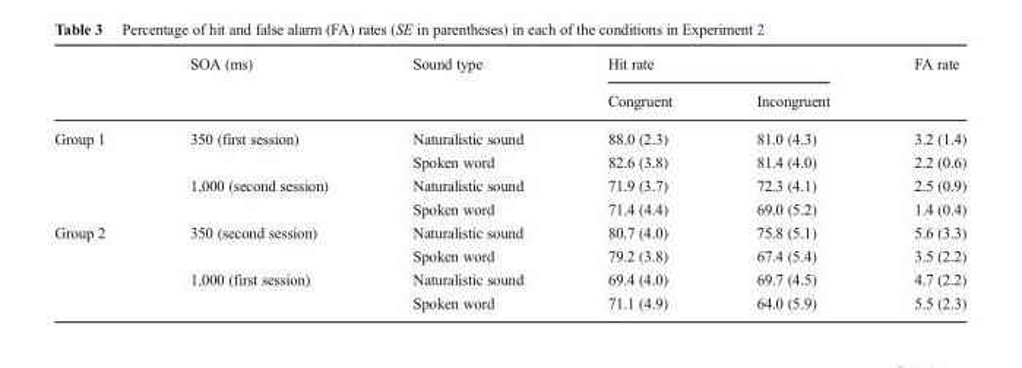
<table><thead><tr><td rowspan="2"></td><td rowspan="2">SOA (ms)</td><td rowspan="2">Sound type</td><td colspan="2">Hit rate</td><td rowspan="2">FA rate</td></tr><tr><td>Congruent</td><td>Incongruent</td></tr></thead><tbody><tr><td rowspan="4">Group 1</td><td rowspan="2">350 (first session)</td><td>Naturalistic sound</td><td>88.0 (2.3)</td><td>81.0 (4.3)</td><td>3.2 (1.4)</td></tr><tr><td>Spoken word</td><td>82.6 (3.8)</td><td>81.4 (4.0)</td><td>2.2 (0.6)</td></tr><tr><td rowspan="2">1,000 (second session)</td><td>Naturalistic sound</td><td>71.9 (3.7)</td><td>72.3 (4.1)</td><td>2.5 (0.9)</td></tr><tr><td>Spoken word</td><td>71.4 (4.4)</td><td>69.0 (5.2)</td><td>1.4 (0.4)</td></tr><tr><td rowspan="4">Group 2</td><td rowspan="2">350 (second session)</td><td>Naturalistic sound</td><td>80.7 (4.0)</td><td>75.8 (5.1)</td><td>5.6 (3.3)</td></tr><tr><td>Spoken word</td><td>79.2 (3.8)</td><td>67.4 (5.4)</td><td>3.5 (2.2)</td></tr><tr><td rowspan="2">1,000 (first session)</td><td>Naturalistic sound</td><td>69.4 (4.0)</td><td>69.7 (4.5)</td><td>4.7 (2.2)</td></tr><tr><td>Spoken word</td><td>71.1 (4.9)</td><td>64.0 (5.9)</td><td>5.5 (2.3)</td></tr></tbody></table>